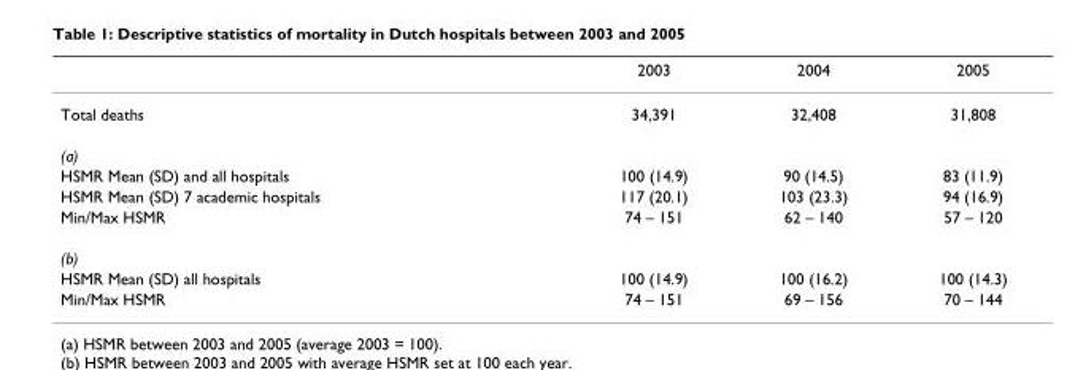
<table><thead><tr><td></td><td>2003</td><td>2004</td><td>2005</td></tr></thead><tbody><tr><td>Total deaths</td><td>34,391</td><td>32,408</td><td>31,808</td></tr><tr><td colspan="4">(a)</td></tr><tr><td>HSMR Mean (SD) and all hospitals</td><td>100 (14.9)</td><td>90 (14.5)</td><td>83 (11.9)</td></tr><tr><td>HSMR Mean (SD) 7 academic hospitals</td><td>117 (20.1)</td><td>103 (23.3)</td><td>94 (16.9)</td></tr><tr><td>Min/Max HSMR</td><td>74 – 151</td><td>62 – 140</td><td>57 – 120</td></tr><tr><td colspan="4">(b)</td></tr><tr><td>HSMR Mean (SD) all hospitals</td><td>100 (14.9)</td><td>100 (16.2)</td><td>100 (14.3)</td></tr><tr><td>Min/Max HSMR</td><td>74 – 151</td><td>69 – 156</td><td>70 – 144</td></tr></tbody></table>